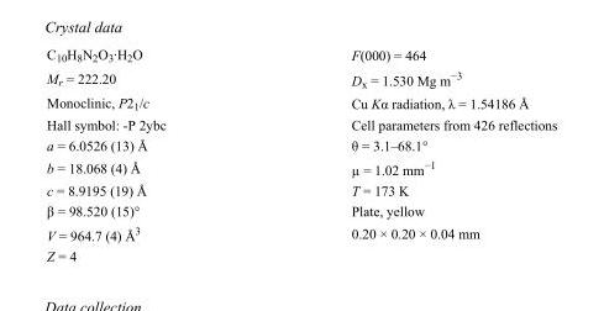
<table><tbody><tr><td>C<sub>10</sub>H<sub>8</sub>N<sub>2</sub>O<sub>3</sub>·H<sub>2</sub>O</td><td>F(000) = 464</td></tr><tr><td>M<sub>r</sub> = 222.20</td><td>D<sub>x</sub> = 1.530 Mg m<sup>−3</sup></td></tr><tr><td>Monoclinic, P2<sub>1</sub>/c</td><td>Cu Kα radiation, λ = 1.54186 Å</td></tr><tr><td>Hall symbol: -P 2ybc</td><td>Cell parameters from 426 reflections</td></tr><tr><td>a = 6.0526 (13) Å</td><td>θ = 3.1–68.1°</td></tr><tr><td>b = 18.068 (4) Å</td><td>µ = 1.02 mm<sup>−1</sup></td></tr><tr><td>c = 8.9195 (19) Å</td><td>T = 173 K</td></tr><tr><td>β = 98.520 (15)°</td><td>Plate, yellow</td></tr><tr><td>V = 964.7 (4) Å<sup>3</sup></td><td>0.20 × 0.20 × 0.04 mm</td></tr><tr><td>Z = 4</td><td></td></tr></tbody></table>